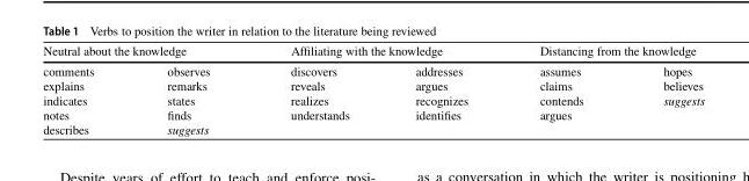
<table><thead><tr><td colspan="2">Neutral about the knowledge</td><td colspan="2">Affiliating with the knowledge</td><td colspan="2">Distancing from the knowledge</td></tr><tr><td>comments explains indicates notes describes</td><td>observes remarks states finds suggests</td><td>discovers reveals realizes understands</td><td>addresses argues recognizes identifies</td><td>assumes claims contends argues</td><td>hopes believes suggests</td></tr></thead><tbody></tbody></table>